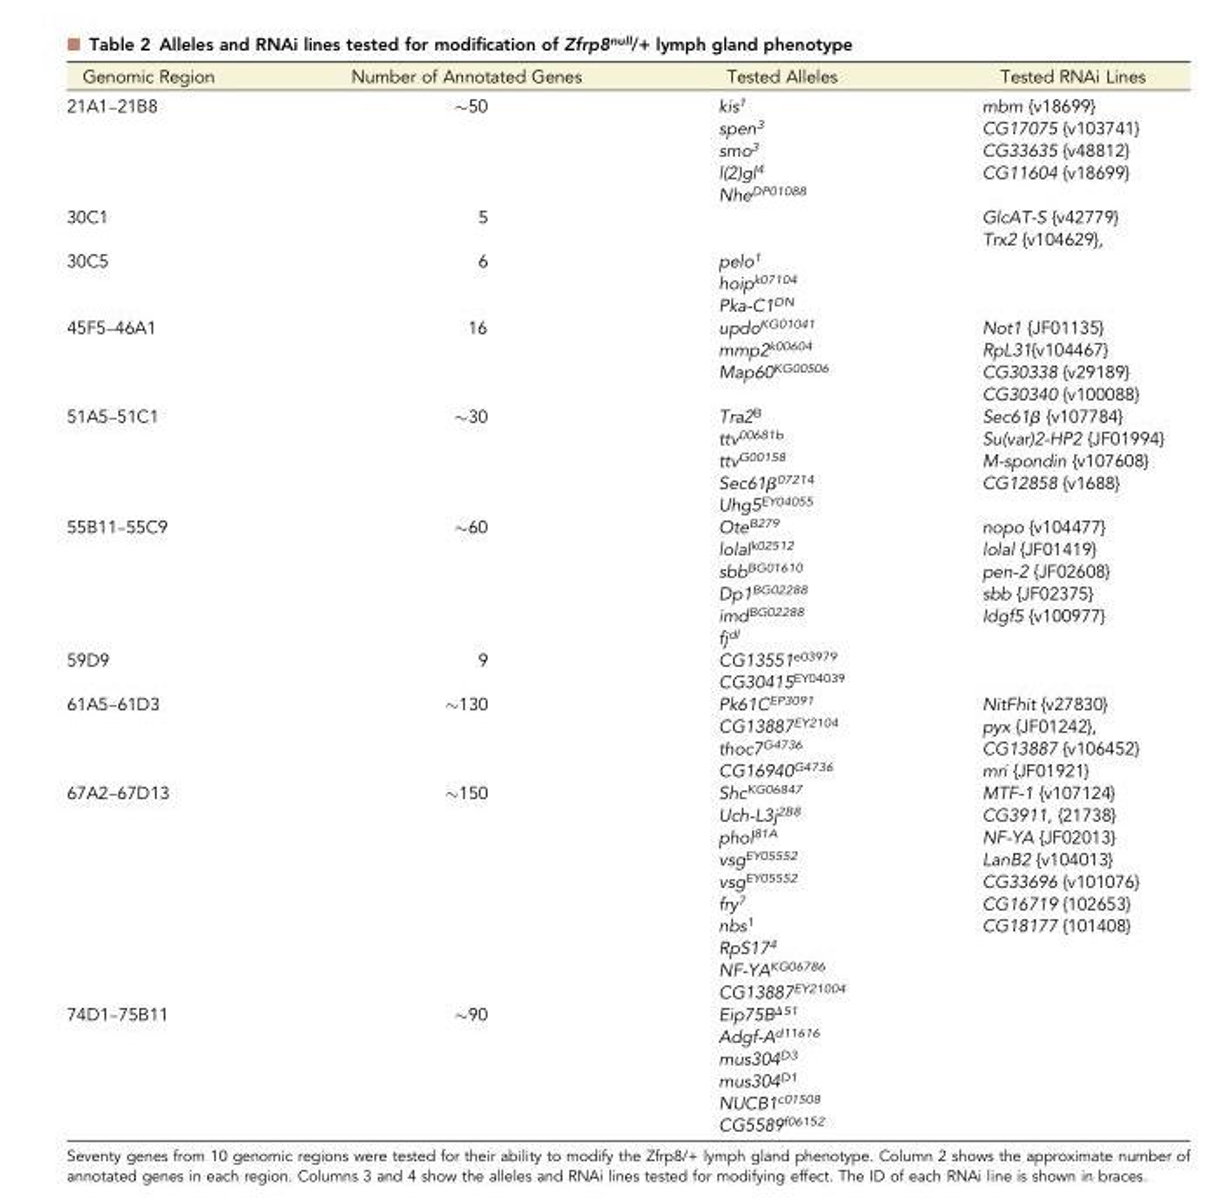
<table><thead><tr><td>Genomic Region</td><td>Number of Annotated Genes</td><td>Tested Alleles</td><td>Tested RNAi Lines</td></tr></thead><tbody><tr><td>21A1–21B8</td><td>∼50</td><td>kis<sup>1</sup> spen<sup>3</sup> smo<sup>3</sup> l(2)gl<sup>4</sup> Nhe<sup>DP01088</sup></td><td>mbm {v18699} CG17075 {v103741} CG33635 {v48812} CG11604 {v18699}</td></tr><tr><td>30C1</td><td>5</td><td></td><td>GlcAT-S {v42779} Trx2 {v104629},</td></tr><tr><td>30C5</td><td>6</td><td>pelo<sup>1</sup> hoip<sup>k07104</sup> Pka-C1<sup>DN</sup></td><td></td></tr><tr><td>45F5–46A1</td><td>16</td><td>updo<sup>KG01041</sup> mmp2<sup>k00604</sup> Map60<sup>KG00506</sup></td><td>Not1 {JF01135} RpL31{v104467} CG30338 {v29189} CG30340 {v100088}</td></tr><tr><td>51A5–51C1</td><td>∼30</td><td>Tra2<sup>B</sup> ttv<sup>00681b</sup> ttv<sup>G00158</sup> Sec61β<sup>07214</sup> Uhg5<sup>EY04055</sup></td><td>Sec61β {v107784} Su(var)2-HP2 {JF01994} M-spondin {v107608} CG12858 {v1688}</td></tr><tr><td>55B11–55C9</td><td>∼60</td><td>Ote<sup>B279</sup> lolal<sup>k02512</sup> sbb<sup>BG01610</sup> Dp1<sup>BG02288</sup> imd<sup>BG02288</sup> fj<sup>dl</sup></td><td>nopo {v104477} lolal {JF01419} pen-2 {JF02608} sbb {JF02375} Idgf5 {v100977}</td></tr><tr><td>59D9</td><td>9</td><td>CG13551<sup>e03979</sup> CG30415<sup>EY04039</sup></td><td></td></tr><tr><td>61A5–61D3</td><td>∼130</td><td>Pk61C<sup>EP3091</sup> CG13887<sup>EY2104</sup> thoc7<sup>G4736</sup> CG16940<sup>G4736</sup></td><td>NitFhit {v27830} pyx {JF01242}, CG13887 {v106452} mri {JF01921}</td></tr><tr><td>67A2–67D13</td><td>∼150</td><td>Shc<sup>KG06847</sup> Uch-L3j<sup>2B8</sup> phol<sup>81A</sup> vsg<sup>EY05552</sup> vsg<sup>EY05552</sup> fry<sup>7</sup> nbs<sup>1</sup> RpS17<sup>4</sup> NF-YA<sup>KG06786</sup> CG13887<sup>EY21004</sup></td><td>MTF-1 {v107124} CG3911, {21738} NF-YA {JF02013} LanB2 {v104013} CG33696 {v101076} CG16719 {102653} CG18177 {101408}</td></tr><tr><td>74D1–75B11</td><td>∼90</td><td>Eip75B<sup>Δ51</sup> Adgf-A<sup>d11616</sup> mus304<sup>D3</sup> mus304<sup>D1</sup> NUCB1<sup>c01508</sup> CG5589<sup>f06152</sup></td><td></td></tr></tbody></table>